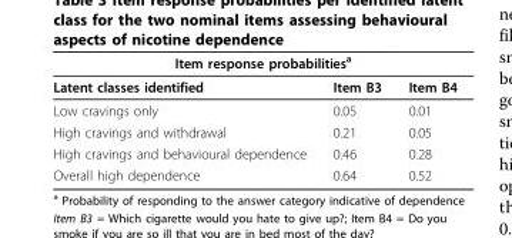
<table><thead><tr><td colspan="3">Item response probabilities<sup>a</sup></td></tr><tr><td>Latent classes identified</td><td>Item B3</td><td>Item B4</td></tr></thead><tbody><tr><td>Low cravings only</td><td>0.05</td><td>0.01</td></tr><tr><td>High cravings and withdrawal</td><td>0.21</td><td>0.05</td></tr><tr><td>High cravings and behavioural dependence</td><td>0.46</td><td>0.28</td></tr><tr><td>Overall high dependence</td><td>0.64</td><td>0.52</td></tr></tbody></table>